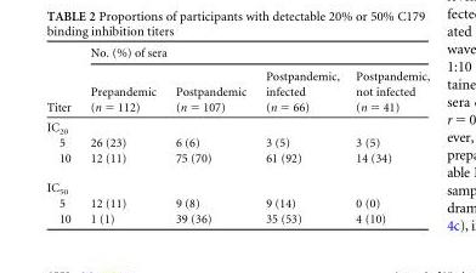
<table><thead><tr><td rowspan="2">Titer</td><td colspan="4">No. (%) of sera</td></tr><tr><td>Prepandemic (n = 112)</td><td>Postpandemic (n = 107)</td><td>Postpandemic, infected (n = 66)</td><td>Postpandemic, not infected (n = 41)</td></tr></thead><tbody><tr><td colspan="5">IC<sub>20</sub></td></tr><tr><td>5</td><td>26 (23)</td><td>6 (6)</td><td>3 (5)</td><td>3 (5)</td></tr><tr><td>10</td><td>12 (11)</td><td>75 (70)</td><td>61 (92)</td><td>14 (34)</td></tr><tr><td colspan="5">IC<sub>50</sub></td></tr><tr><td>5</td><td>12 (11)</td><td>9 (8)</td><td>9 (14)</td><td>0 (0)</td></tr><tr><td>10</td><td>1 (1)</td><td>39 (36)</td><td>35 (53)</td><td>4 (10)</td></tr></tbody></table>